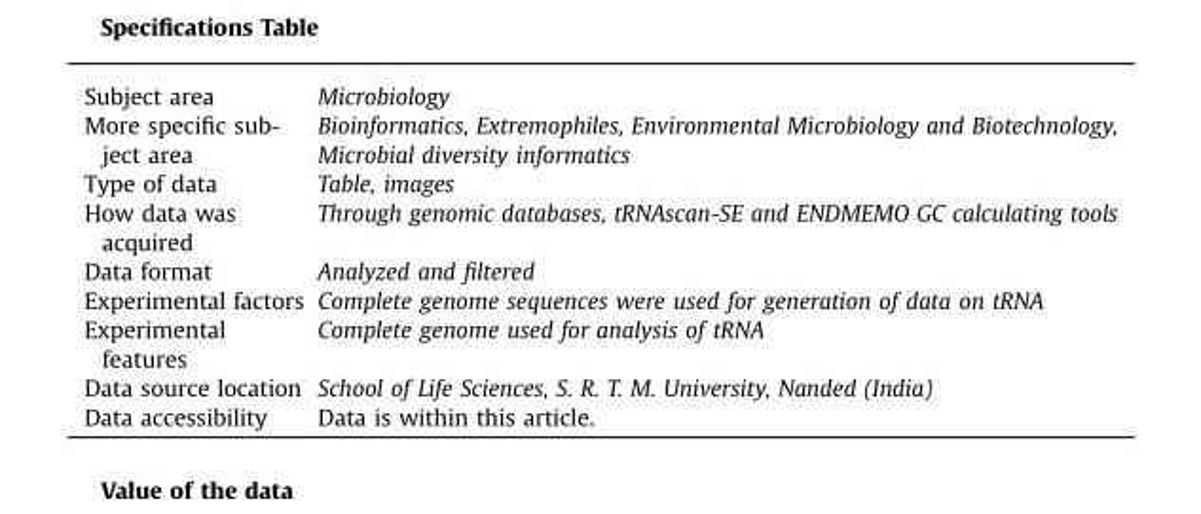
<table><tbody><tr><td>Subject area</td><td>Microbiology</td></tr><tr><td>More specific sub- ject area</td><td>Bioinformatics, Extremophiles, Environmental Microbiology and Biotechnology, Microbial diversity informatics</td></tr><tr><td>Type of data</td><td>Table, images</td></tr><tr><td>How data was acquired</td><td>Through genomic databases, tRNAscan-SE and ENDMEMO GC calculating tools</td></tr><tr><td>Data format</td><td>Analyzed and filtered</td></tr><tr><td>Experimental factors</td><td>Complete genome sequences were used for generation of data on tRNA</td></tr><tr><td>Experimental features</td><td>Complete genome used for analysis of tRNA</td></tr><tr><td>Data source location</td><td>School of Life Sciences, S. R. T. M. University, Nanded (India)</td></tr><tr><td>Data accessibility</td><td>Data is within this article.</td></tr></tbody></table>